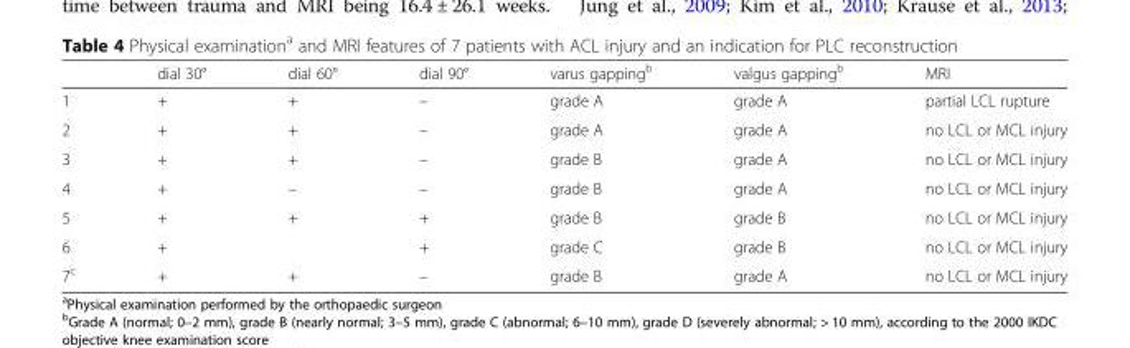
<table><thead><tr><td></td><td>dial 30°</td><td>dial 60°</td><td>dial 90°</td><td>varus gapping<sup>b</sup></td><td>valgus gapping<sup>b</sup></td><td>MRI</td></tr></thead><tbody><tr><td>1</td><td>+</td><td>+</td><td>–</td><td>grade A</td><td>grade A</td><td>partial LCL rupture</td></tr><tr><td>2</td><td>+</td><td>+</td><td>–</td><td>grade A</td><td>grade A</td><td>no LCL or MCL injury</td></tr><tr><td>3</td><td>+</td><td>+</td><td>–</td><td>grade B</td><td>grade A</td><td>no LCL or MCL injury</td></tr><tr><td>4</td><td>+</td><td>–</td><td>–</td><td>grade B</td><td>grade A</td><td>no LCL or MCL injury</td></tr><tr><td>5</td><td>+</td><td>+</td><td>+</td><td>grade B</td><td>grade B</td><td>no LCL or MCL injury</td></tr><tr><td>6</td><td>+</td><td></td><td>+</td><td>grade C</td><td>grade B</td><td>no LCL or MCL injury</td></tr><tr><td>7<sup>c</sup></td><td>+</td><td>+</td><td>–</td><td>grade B</td><td>grade A</td><td>no LCL or MCL injury</td></tr></tbody></table>